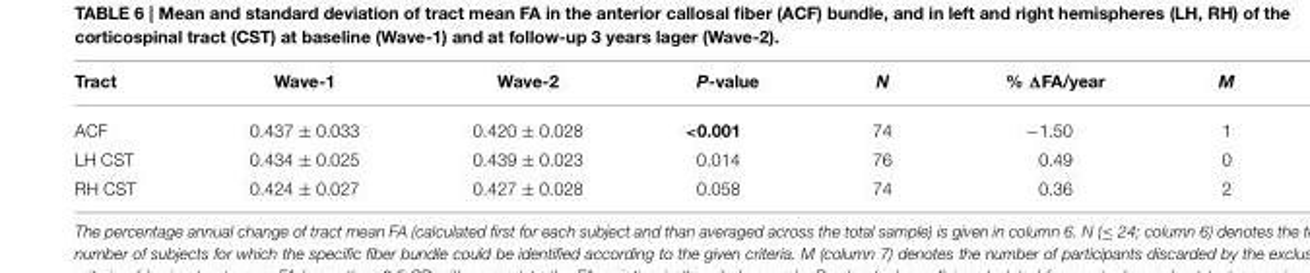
<table><thead><tr><td>Tract</td><td>Wave-1</td><td>Wave-2</td><td>P-value</td><td>N</td><td>% ΔFA/year</td><td>M</td></tr></thead><tbody><tr><td>ACF</td><td>0.437 ± 0.033</td><td>0.420 ± 0.028</td><td>&lt;0.001</td><td>74</td><td>−1.50</td><td>1</td></tr><tr><td>LH CST</td><td>0.434 ± 0.025</td><td>0.439 ± 0.023</td><td>0.014</td><td>76</td><td>0.49</td><td>0</td></tr><tr><td>RH CST</td><td>0.424 ± 0.027</td><td>0.427 ± 0.028</td><td>0.058</td><td>74</td><td>0.36</td><td>2</td></tr></tbody></table>